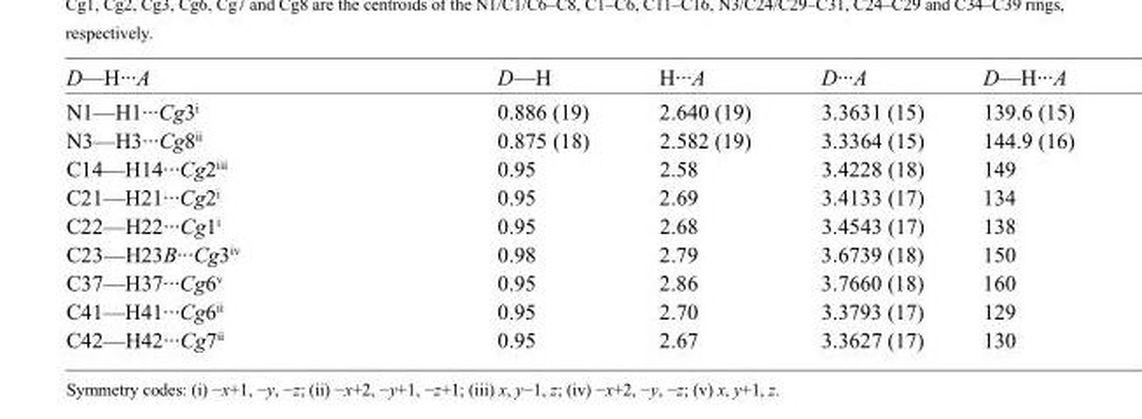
<table><tbody><tr><td>D—H···A</td><td>D—H</td><td>H···A</td><td>D···A</td><td>D—H···A</td></tr><tr><td>N1—H1···Cg3<sup>i</sup></td><td>0.886 (19)</td><td>2.640 (19)</td><td>3.3631 (15)</td><td>139.6 (15)</td></tr><tr><td>N3—H3···Cg8<sup>ii</sup></td><td>0.875 (18)</td><td>2.582 (19)</td><td>3.3364 (15)</td><td>144.9 (16)</td></tr><tr><td>C14—H14···Cg2<sup>iii</sup></td><td>0.95</td><td>2.58</td><td>3.4228 (18)</td><td>149</td></tr><tr><td>C21—H21···Cg2<sup>i</sup></td><td>0.95</td><td>2.69</td><td>3.4133 (17)</td><td>134</td></tr><tr><td>C22—H22···Cg1<sup>i</sup></td><td>0.95</td><td>2.68</td><td>3.4543 (17)</td><td>138</td></tr><tr><td>C23—H23B···Cg3<sup>iv</sup></td><td>0.98</td><td>2.79</td><td>3.6739 (18)</td><td>150</td></tr><tr><td>C37—H37···Cg6<sup>v</sup></td><td>0.95</td><td>2.86</td><td>3.7660 (18)</td><td>160</td></tr><tr><td>C41—H41···Cg6<sup>ii</sup></td><td>0.95</td><td>2.70</td><td>3.3793 (17)</td><td>129</td></tr><tr><td>C42—H42···Cg7<sup>ii</sup></td><td>0.95</td><td>2.67</td><td>3.3627 (17)</td><td>130</td></tr></tbody></table>